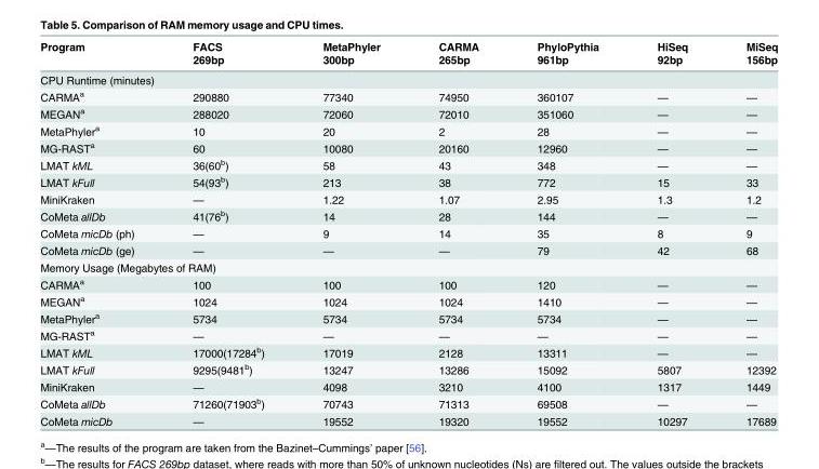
<table><thead><tr><td rowspan="2">Program</td><td rowspan="2">FACS 269bp</td><td rowspan="2">MetaPhyler 300bp</td><td rowspan="2">CARMA 265bp</td><td rowspan="2">PhyloPythia 961bp</td><td rowspan="2">HiSeq 92bp</td><td rowspan="2">MiSeq 156bp</td></tr><tr></tr></thead><tbody><tr><td colspan="7">CPU Runtime (minutes)</td></tr><tr><td>CARMA<sup>a</sup></td><td>290880</td><td>77340</td><td>74950</td><td>360107</td><td>—</td><td>—</td></tr><tr><td>MEGAN<sup>a</sup></td><td>288020</td><td>72060</td><td>72010</td><td>351060</td><td>—</td><td>—</td></tr><tr><td>MetaPhyler<sup>a</sup></td><td>10</td><td>20</td><td>2</td><td>28</td><td>—</td><td>—</td></tr><tr><td>MG-RAST<sup>a</sup></td><td>60</td><td>10080</td><td>20160</td><td>12960</td><td>—</td><td>—</td></tr><tr><td>LMAT kML</td><td>36(60<sup>b</sup>)</td><td>58</td><td>43</td><td>348</td><td>—</td><td>—</td></tr><tr><td>LMAT kFull</td><td>54(93<sup>b</sup>)</td><td>213</td><td>38</td><td>772</td><td>15</td><td>33</td></tr><tr><td>MiniKraken</td><td>—</td><td>1.22</td><td>1.07</td><td>2.95</td><td>1.3</td><td>1.2</td></tr><tr><td>CoMeta allDb</td><td>41(76<sup>b</sup>)</td><td>14</td><td>28</td><td>144</td><td>—</td><td>—</td></tr><tr><td>CoMeta micDb (ph)</td><td>—</td><td>9</td><td>14</td><td>35</td><td>8</td><td>9</td></tr><tr><td>CoMeta micDb (ge)</td><td>—</td><td>—</td><td>—</td><td>79</td><td>42</td><td>68</td></tr><tr><td colspan="7">Memory Usage (Megabytes of RAM)</td></tr><tr><td>CARMA<sup>a</sup></td><td>100</td><td>100</td><td>100</td><td>120</td><td>—</td><td>—</td></tr><tr><td>MEGAN<sup>a</sup></td><td>1024</td><td>1024</td><td>1024</td><td>1410</td><td>—</td><td>—</td></tr><tr><td>MetaPhyler<sup>a</sup></td><td>5734</td><td>5734</td><td>5734</td><td>5734</td><td>—</td><td>—</td></tr><tr><td>MG-RAST<sup>a</sup></td><td>—</td><td>—</td><td>—</td><td>—</td><td>—</td><td>—</td></tr><tr><td>LMAT kML</td><td>17000(17284<sup>b</sup>)</td><td>17019</td><td>2128</td><td>13311</td><td>—</td><td>—</td></tr><tr><td>LMAT kFull</td><td>9295(9481<sup>b</sup>)</td><td>13247</td><td>13286</td><td>15092</td><td>5807</td><td>12392</td></tr><tr><td>MiniKraken</td><td>—</td><td>4098</td><td>3210</td><td>4100</td><td>1317</td><td>1449</td></tr><tr><td>CoMeta allDb</td><td>71260(71903<sup>b</sup>)</td><td>70743</td><td>71313</td><td>69508</td><td>—</td><td>—</td></tr><tr><td>CoMeta micDb</td><td>—</td><td>19552</td><td>19320</td><td>19552</td><td>10297</td><td>17689</td></tr></tbody></table>